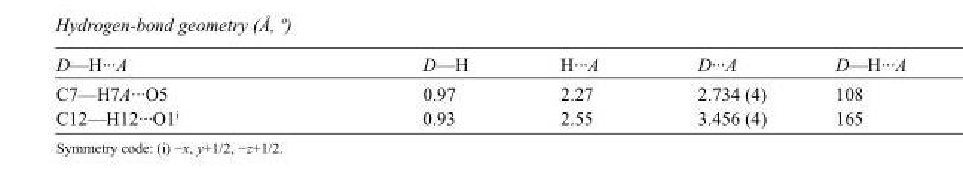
<table><tbody><tr><td>D—H···A</td><td>D—H</td><td>H···A</td><td>D···A</td><td>D—H···A</td></tr><tr><td>C7—H7A···O5</td><td>0.97</td><td>2.27</td><td>2.734 (4)</td><td>108</td></tr><tr><td>C12—H12···O1<sup>i</sup></td><td>0.93</td><td>2.55</td><td>3.456 (4)</td><td>165</td></tr></tbody></table>